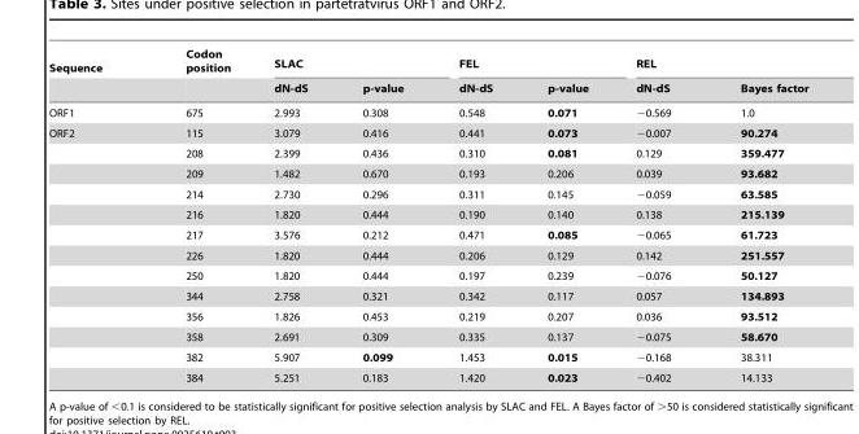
<table><thead><tr><td rowspan="2">Sequence</td><td rowspan="2">Codon position</td><td colspan="2">SLAC</td><td colspan="2">FEL</td><td colspan="2">REL</td></tr><tr><td>dN-dS</td><td>p-value</td><td>dN-dS</td><td>p-value</td><td>dN-dS</td><td>Bayes factor</td></tr></thead><tbody><tr><td>ORF1</td><td>675</td><td>2.993</td><td>0.308</td><td>0.548</td><td>0.071</td><td>−0.569</td><td>1.0</td></tr><tr><td rowspan="13">ORF2</td><td>115</td><td>3.079</td><td>0.416</td><td>0.441</td><td>0.073</td><td>−0.007</td><td>90.274</td></tr><tr><td>208</td><td>2.399</td><td>0.436</td><td>0.310</td><td>0.081</td><td>0.129</td><td>359.477</td></tr><tr><td>209</td><td>1.482</td><td>0.670</td><td>0.193</td><td>0.206</td><td>0.039</td><td>93.682</td></tr><tr><td>214</td><td>2.730</td><td>0.296</td><td>0.311</td><td>0.145</td><td>−0.059</td><td>63.585</td></tr><tr><td>216</td><td>1.820</td><td>0.444</td><td>0.190</td><td>0.140</td><td>0.138</td><td>215.139</td></tr><tr><td>217</td><td>3.576</td><td>0.212</td><td>0.471</td><td>0.085</td><td>−0.065</td><td>61.723</td></tr><tr><td>226</td><td>1.820</td><td>0.444</td><td>0.206</td><td>0.129</td><td>0.142</td><td>251.557</td></tr><tr><td>250</td><td>1.820</td><td>0.444</td><td>0.197</td><td>0.239</td><td>−0.076</td><td>50.127</td></tr><tr><td>344</td><td>2.758</td><td>0.321</td><td>0.342</td><td>0.117</td><td>0.057</td><td>134.893</td></tr><tr><td>356</td><td>1.826</td><td>0.453</td><td>0.219</td><td>0.207</td><td>0.036</td><td>93.512</td></tr><tr><td>358</td><td>2.691</td><td>0.309</td><td>0.335</td><td>0.137</td><td>−0.075</td><td>58.670</td></tr><tr><td>382</td><td>5.907</td><td>0.099</td><td>1.453</td><td>0.015</td><td>−0.168</td><td>38.311</td></tr><tr><td>384</td><td>5.251</td><td>0.183</td><td>1.420</td><td>0.023</td><td>−0.402</td><td>14.133</td></tr></tbody></table>